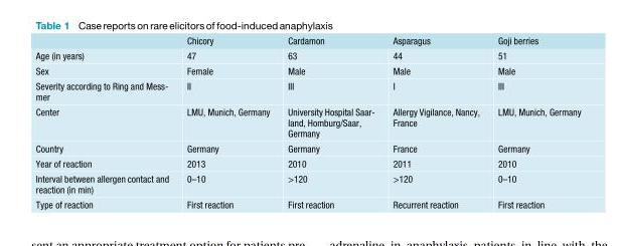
<table><thead><tr><td></td><td>Chicory</td><td>Cardamon</td><td>Asparagus</td><td>Goji berries</td></tr></thead><tbody><tr><td>Age (in years)</td><td>47</td><td>63</td><td>44</td><td>51</td></tr><tr><td>Sex</td><td>Female</td><td>Male</td><td>Male</td><td>Male</td></tr><tr><td>Severity according to Ring and Mess- mer</td><td>II</td><td>III</td><td>I</td><td>III</td></tr><tr><td>Center</td><td>LMU, Munich, Germany</td><td>University Hospital Saar- land, Homburg/Saar, Germany</td><td>Allergy Vigilance, Nancy, France</td><td>LMU, Munich, Germany</td></tr><tr><td>Country</td><td>Germany</td><td>Germany</td><td>France</td><td>Germany</td></tr><tr><td>Year of reaction</td><td>2013</td><td>2010</td><td>2011</td><td>2010</td></tr><tr><td>Interval between allergen contact and reaction (in min)</td><td>0–10</td><td>&gt;120</td><td>&gt;120</td><td>0–10</td></tr><tr><td>Type of reaction</td><td>First reaction</td><td>First reaction</td><td>Recurrent reaction</td><td>First reaction</td></tr></tbody></table>